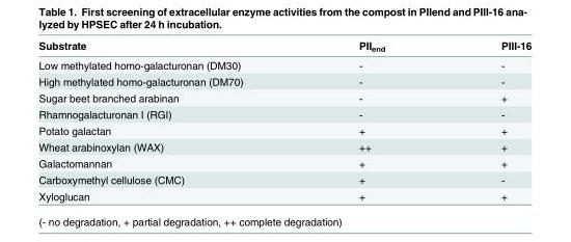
<table><thead><tr><td>Substrate</td><td>PII<sub>end</sub></td><td>PIII-16</td></tr></thead><tbody><tr><td>Low methylated homo-galacturonan (DM30)</td><td>-</td><td>-</td></tr><tr><td>High methylated homo-galacturonan (DM70)</td><td>-</td><td>-</td></tr><tr><td>Sugar beet branched arabinan</td><td>-</td><td>+</td></tr><tr><td>Rhamnogalacturonan I (RGI)</td><td>-</td><td>-</td></tr><tr><td>Potato galactan</td><td>+</td><td>+</td></tr><tr><td>Wheat arabinoxylan (WAX)</td><td>++</td><td>+</td></tr><tr><td>Galactomannan</td><td>+</td><td>+</td></tr><tr><td>Carboxymethyl cellulose (CMC)</td><td>+</td><td>-</td></tr><tr><td>Xyloglucan</td><td>+</td><td>+</td></tr></tbody></table>